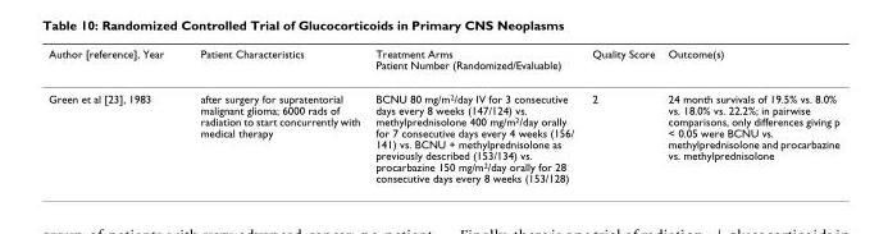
<table><thead><tr><td>Author [reference], Year</td><td>Patient Characteristics</td><td>Treatment Arms Patient Number (Randomized/Evaluable)</td><td>Quality Score</td><td>Outcome(s)</td></tr></thead><tbody><tr><td>Green et al [23], 1983</td><td>after surgery for supratentorial malignant glioma; 6000 rads of radiation to start concurrently with medical therapy</td><td>BCNU 80 mg/m<sup>2</sup>/day IV for 3 consecutive days every 8 weeks (147/124) vs. methylprednisolone 400 mg/m<sup>2</sup>/day orally for 7 consecutive days every 4 weeks (156/ 141) vs. BCNU + methylprednisolone as previously described (153/134) vs. procarbazine 150 mg/m<sup>2</sup>/day orally for 28 consecutive days every 8 weeks (153/128)</td><td>2</td><td>24 month survivals of 19.5% vs. 8.0% vs. 18.0% vs. 22.2%; in pairwise comparisons, only differences giving p &lt; 0.05 were BCNU vs. methylprednisolone and procarbazine vs. methylprednisolone</td></tr></tbody></table>